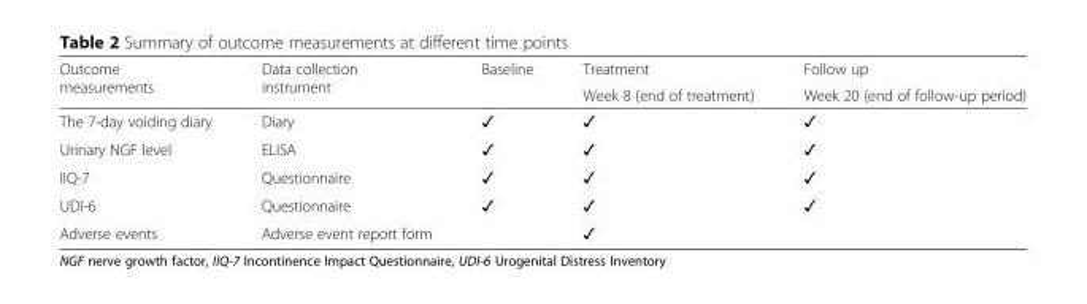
<table><thead><tr><td rowspan="2">Outcome measurements</td><td rowspan="2">Data collection instrument</td><td rowspan="2">Baseline</td><td rowspan="2">Treatment Week 8 (end of treatment)</td><td rowspan="2">Follow up Week 20 (end of follow-up period)</td></tr><tr></tr></thead><tbody><tr><td>The 7-day voiding diary</td><td>Diary</td><td>✓</td><td>✓</td><td>✓</td></tr><tr><td>Urinary NGF level</td><td>ELISA</td><td>✓</td><td>✓</td><td>✓</td></tr><tr><td>IIQ-7</td><td>Questionnaire</td><td>✓</td><td>✓</td><td>✓</td></tr><tr><td>UDI-6</td><td>Questionnaire</td><td>✓</td><td>✓</td><td>✓</td></tr><tr><td>Adverse events</td><td>Adverse event report form</td><td></td><td>✓</td><td></td></tr></tbody></table>